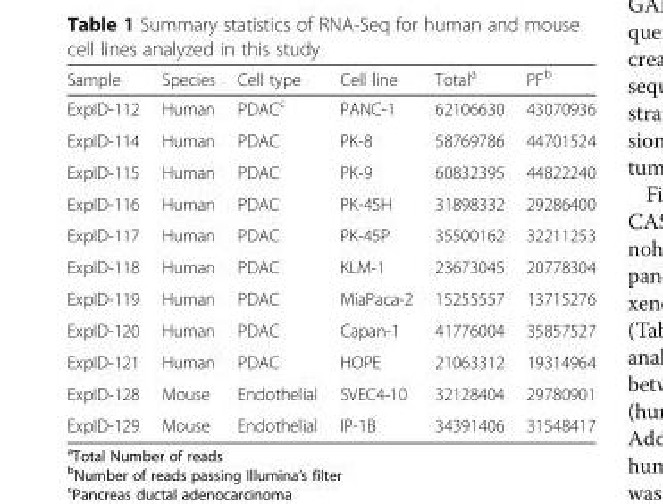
<table><thead><tr><td>Sample</td><td>Species</td><td>Cell type</td><td>Cell line</td><td>Total<sup>a</sup></td><td>PF<sup>b</sup></td></tr></thead><tbody><tr><td>ExpID-112</td><td>Human</td><td>PDAC<sup>c</sup></td><td>PANC-1</td><td>62106630</td><td>43070936</td></tr><tr><td>ExpID-114</td><td>Human</td><td>PDAC</td><td>PK-8</td><td>58769786</td><td>44701524</td></tr><tr><td>ExpID-115</td><td>Human</td><td>PDAC</td><td>PK-9</td><td>60832395</td><td>44822240</td></tr><tr><td>ExpID-116</td><td>Human</td><td>PDAC</td><td>PK-45H</td><td>31898332</td><td>29286400</td></tr><tr><td>ExpID-117</td><td>Human</td><td>PDAC</td><td>PK-45P</td><td>35500162</td><td>32211253</td></tr><tr><td>ExpID-118</td><td>Human</td><td>PDAC</td><td>KLM-1</td><td>23673045</td><td>20778304</td></tr><tr><td>ExpID-119</td><td>Human</td><td>PDAC</td><td>MiaPaca-2</td><td>15255557</td><td>13715276</td></tr><tr><td>ExpID-120</td><td>Human</td><td>PDAC</td><td>Capan-1</td><td>41776004</td><td>35857527</td></tr><tr><td>ExpID-121</td><td>Human</td><td>PDAC</td><td>HOPE</td><td>21063312</td><td>19314964</td></tr><tr><td>ExpID-128</td><td>Mouse</td><td>Endothelial</td><td>SVEC4-10</td><td>32128404</td><td>29780901</td></tr><tr><td>ExpID-129</td><td>Mouse</td><td>Endothelial</td><td>IP-1B</td><td>34391406</td><td>31548417</td></tr></tbody></table>